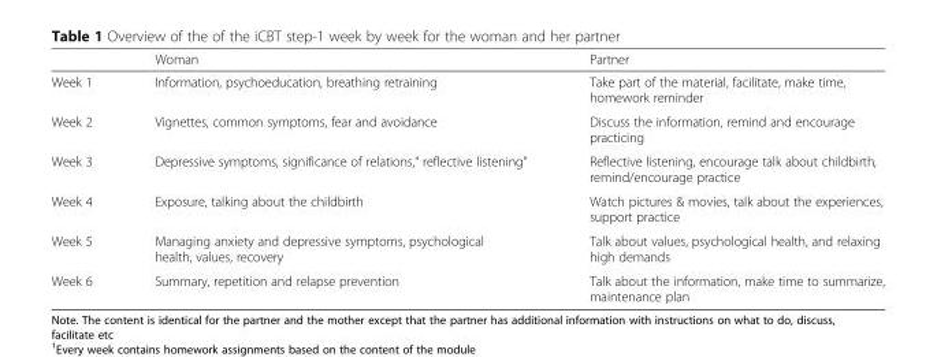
<table><thead><tr><td></td><td>Woman</td><td>Partner</td></tr></thead><tbody><tr><td>Week 1</td><td>Information, psychoeducation, breathing retraining</td><td>Take part of the material, facilitate, make time, homework reminder</td></tr><tr><td>Week 2</td><td>Vignettes, common symptoms, fear and avoidance</td><td>Discuss the information, remind and encourage practicing</td></tr><tr><td>Week 3</td><td>Depressive symptoms, significance of relations,“ reflective listening”</td><td>Reflective listening, encourage talk about childbirth, remind/encourage practice</td></tr><tr><td>Week 4</td><td>Exposure, talking about the childbirth</td><td>Watch pictures &amp; movies, talk about the experiences, support practice</td></tr><tr><td>Week 5</td><td>Managing anxiety and depressive symptoms, psychological health, values, recovery</td><td>Talk about values, psychological health, and relaxing high demands</td></tr><tr><td>Week 6</td><td>Summary, repetition and relapse prevention</td><td>Talk about the information, make time to summarize, maintenance plan</td></tr></tbody></table>